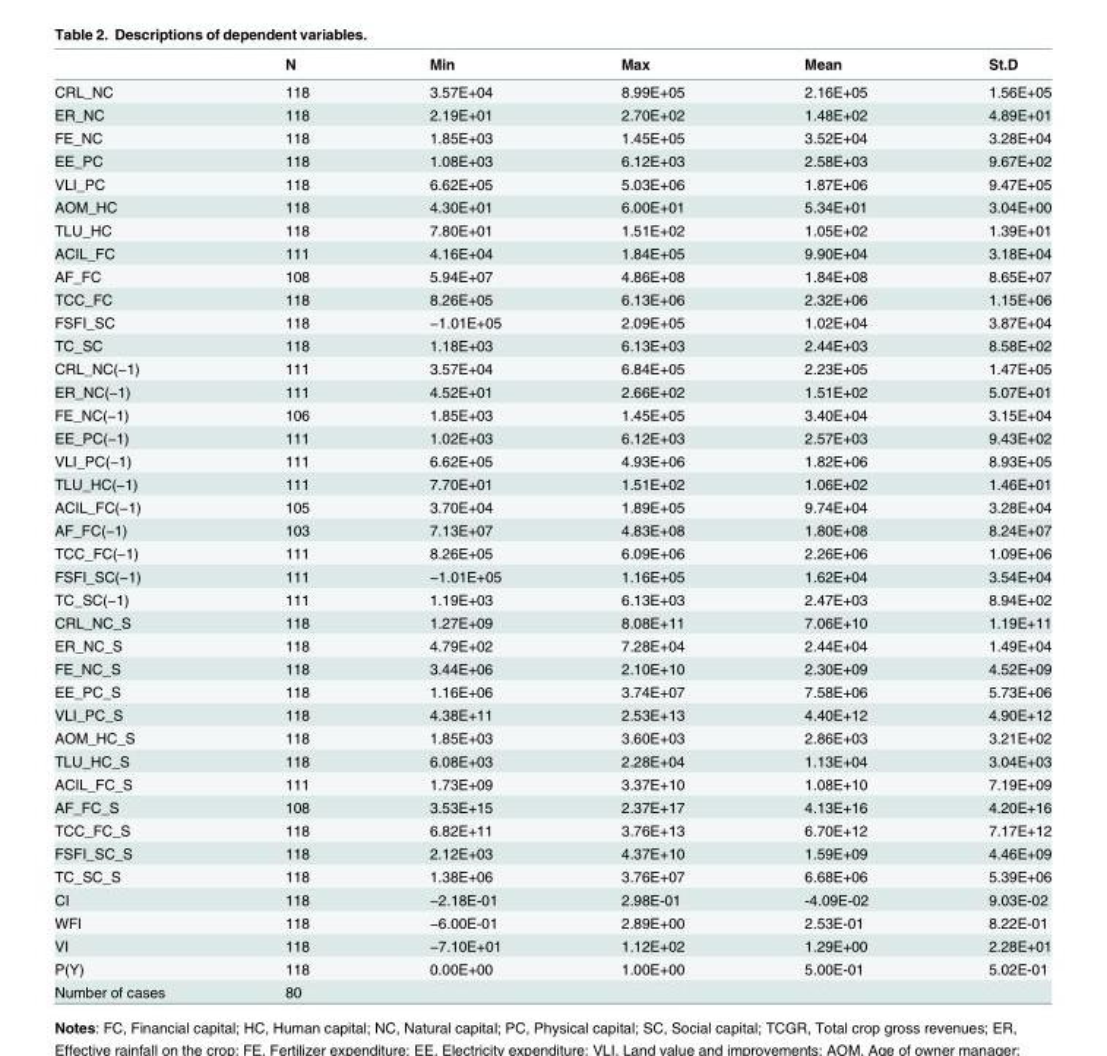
<table><thead><tr><td></td><td>N</td><td>Min</td><td>Max</td><td>Mean</td><td>St.D</td></tr></thead><tbody><tr><td>CRL_NC</td><td>118</td><td>3.57E+04</td><td>8.99E+05</td><td>2.16E+05</td><td>1.56E+05</td></tr><tr><td>ER_NC</td><td>118</td><td>2.19E+01</td><td>2.70E+02</td><td>1.48E+02</td><td>4.89E+01</td></tr><tr><td>FE_NC</td><td>118</td><td>1.85E+03</td><td>1.45E+05</td><td>3.52E+04</td><td>3.28E+04</td></tr><tr><td>EE_PC</td><td>118</td><td>1.08E+03</td><td>6.12E+03</td><td>2.58E+03</td><td>9.67E+02</td></tr><tr><td>VLI_PC</td><td>118</td><td>6.62E+05</td><td>5.03E+06</td><td>1.87E+06</td><td>9.47E+05</td></tr><tr><td>AOM_HC</td><td>118</td><td>4.30E+01</td><td>6.00E+01</td><td>5.34E+01</td><td>3.04E+00</td></tr><tr><td>TLU_HC</td><td>118</td><td>7.80E+01</td><td>1.51E+02</td><td>1.05E+02</td><td>1.39E+01</td></tr><tr><td>ACIL_FC</td><td>111</td><td>4.16E+04</td><td>1.84E+05</td><td>9.90E+04</td><td>3.18E+04</td></tr><tr><td>AF_FC</td><td>108</td><td>5.94E+07</td><td>4.86E+08</td><td>1.84E+08</td><td>8.65E+07</td></tr><tr><td>TCC_FC</td><td>118</td><td>8.26E+05</td><td>6.13E+06</td><td>2.32E+06</td><td>1.15E+06</td></tr><tr><td>FSFI_SC</td><td>118</td><td>−1.01E+05</td><td>2.09E+05</td><td>1.02E+04</td><td>3.87E+04</td></tr><tr><td>TC_SC</td><td>118</td><td>1.18E+03</td><td>6.13E+03</td><td>2.44E+03</td><td>8.58E+02</td></tr><tr><td>CRL_NC(−1)</td><td>111</td><td>3.57E+04</td><td>6.84E+05</td><td>2.23E+05</td><td>1.47E+05</td></tr><tr><td>ER_NC(−1)</td><td>111</td><td>4.52E+01</td><td>2.66E+02</td><td>1.51E+02</td><td>5.07E+01</td></tr><tr><td>FE_NC(−1)</td><td>106</td><td>1.85E+03</td><td>1.45E+05</td><td>3.40E+04</td><td>3.15E+04</td></tr><tr><td>EE_PC(−1)</td><td>111</td><td>1.02E+03</td><td>6.12E+03</td><td>2.57E+03</td><td>9.43E+02</td></tr><tr><td>VLI_PC(−1)</td><td>111</td><td>6.62E+05</td><td>4.93E+06</td><td>1.82E+06</td><td>8.93E+05</td></tr><tr><td>TLU_HC(−1)</td><td>111</td><td>7.70E+01</td><td>1.51E+02</td><td>1.06E+02</td><td>1.46E+01</td></tr><tr><td>ACIL_FC(−1)</td><td>105</td><td>3.70E+04</td><td>1.89E+05</td><td>9.74E+04</td><td>3.28E+04</td></tr><tr><td>AF_FC(−1)</td><td>103</td><td>7.13E+07</td><td>4.83E+08</td><td>1.80E+08</td><td>8.24E+07</td></tr><tr><td>TCC_FC(−1)</td><td>111</td><td>8.26E+05</td><td>6.09E+06</td><td>2.26E+06</td><td>1.09E+06</td></tr><tr><td>FSFI_SC(−1)</td><td>111</td><td>−1.01E+05</td><td>1.16E+05</td><td>1.62E+04</td><td>3.54E+04</td></tr><tr><td>TC_SC(−1)</td><td>111</td><td>1.19E+03</td><td>6.13E+03</td><td>2.47E+03</td><td>8.94E+02</td></tr><tr><td>CRL_NC_S</td><td>118</td><td>1.27E+09</td><td>8.08E+11</td><td>7.06E+10</td><td>1.19E+11</td></tr><tr><td>ER_NC_S</td><td>118</td><td>4.79E+02</td><td>7.28E+04</td><td>2.44E+04</td><td>1.49E+04</td></tr><tr><td>FE_NC_S</td><td>118</td><td>3.44E+06</td><td>2.10E+10</td><td>2.30E+09</td><td>4.52E+09</td></tr><tr><td>EE_PC_S</td><td>118</td><td>1.16E+06</td><td>3.74E+07</td><td>7.58E+06</td><td>5.73E+06</td></tr><tr><td>VLI_PC_S</td><td>118</td><td>4.38E+11</td><td>2.53E+13</td><td>4.40E+12</td><td>4.90E+12</td></tr><tr><td>AOM_HC_S</td><td>118</td><td>1.85E+03</td><td>3.60E+03</td><td>2.86E+03</td><td>3.21E+02</td></tr><tr><td>TLU_HC_S</td><td>118</td><td>6.08E+03</td><td>2.28E+04</td><td>1.13E+04</td><td>3.04E+03</td></tr><tr><td>ACIL_FC_S</td><td>111</td><td>1.73E+09</td><td>3.37E+10</td><td>1.08E+10</td><td>7.19E+09</td></tr><tr><td>AF_FC_S</td><td>108</td><td>3.53E+15</td><td>2.37E+17</td><td>4.13E+16</td><td>4.20E+16</td></tr><tr><td>TCC_FC_S</td><td>118</td><td>6.82E+11</td><td>3.76E+13</td><td>6.70E+12</td><td>7.17E+12</td></tr><tr><td>FSFI_SC_S</td><td>118</td><td>2.12E+03</td><td>4.37E+10</td><td>1.59E+09</td><td>4.46E+09</td></tr><tr><td>TC_SC_S</td><td>118</td><td>1.38E+06</td><td>3.76E+07</td><td>6.68E+06</td><td>5.39E+06</td></tr><tr><td>CI</td><td>118</td><td>−2.18E-01</td><td>2.98E-01</td><td>-4.09E-02</td><td>9.03E-02</td></tr><tr><td>WFI</td><td>118</td><td>−6.00E-01</td><td>2.89E+00</td><td>2.53E-01</td><td>8.22E-01</td></tr><tr><td>VI</td><td>118</td><td>−7.10E+01</td><td>1.12E+02</td><td>1.29E+00</td><td>2.28E+01</td></tr><tr><td>P(Y)</td><td>118</td><td>0.00E+00</td><td>1.00E+00</td><td>5.00E-01</td><td>5.02E-01</td></tr><tr><td>Number of cases</td><td>80</td><td></td><td></td><td></td><td></td></tr></tbody></table>